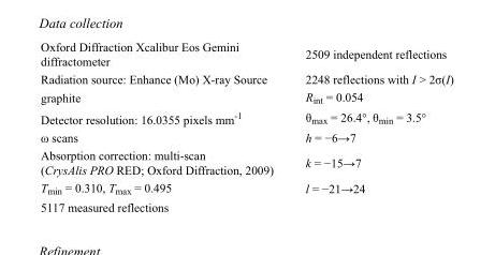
<table><tbody><tr><td>Oxford Diffraction Xcalibur Eos Gemini diffractometer</td><td>2509 independent reflections</td></tr><tr><td>Radiation source: Enhance (Mo) X-ray Source</td><td>2248 reflections with I &gt; 2σ(I)</td></tr><tr><td>graphite</td><td>R<sub>int</sub> = 0.054</td></tr><tr><td>Detector resolution: 16.0355 pixels mm<sup>-1</sup></td><td>θ<sub>max</sub> = 26.4°, θ<sub>min</sub> = 3.5°</td></tr><tr><td>ω scans</td><td>h = −6→7</td></tr><tr><td>Absorption correction: multi-scan (CrysAlis PRO RED; Oxford Diffraction, 2009)</td><td>k = −15→7</td></tr><tr><td>T<sub>min</sub> = 0.310, T<sub>max</sub> = 0.495</td><td>l = −21→24</td></tr><tr><td>5117 measured reflections</td><td></td></tr></tbody></table>